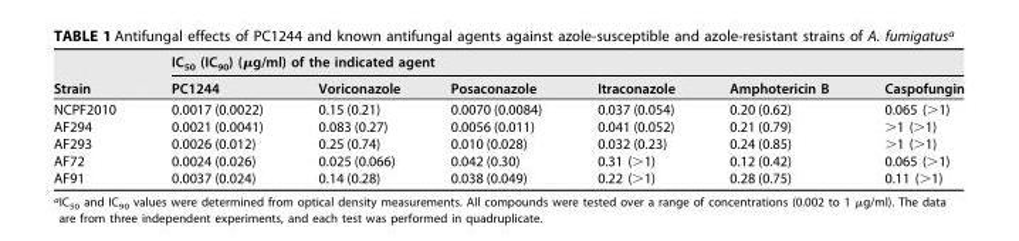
<table><thead><tr><td rowspan="2">Strain</td><td colspan="6">IC<sub>50</sub> (IC<sub>90</sub>) (μg/ml) of the indicated agent</td></tr><tr><td>PC1244</td><td>Voriconazole</td><td>Posaconazole</td><td>Itraconazole</td><td>Amphotericin B</td><td>Caspofungin</td></tr></thead><tbody><tr><td>NCPF2010</td><td>0.0017 (0.0022)</td><td>0.15 (0.21)</td><td>0.0070 (0.0084)</td><td>0.037 (0.054)</td><td>0.20 (0.62)</td><td>0.065 (&gt;1)</td></tr><tr><td>AF294</td><td>0.0021 (0.0041)</td><td>0.083 (0.27)</td><td>0.0056 (0.011)</td><td>0.041 (0.052)</td><td>0.21 (0.79)</td><td>&gt;1 (&gt;1)</td></tr><tr><td>AF293</td><td>0.0026 (0.012)</td><td>0.25 (0.74)</td><td>0.010 (0.028)</td><td>0.032 (0.23)</td><td>0.24 (0.85)</td><td>&gt;1 (&gt;1)</td></tr><tr><td>AF72</td><td>0.0024 (0.026)</td><td>0.025 (0.066)</td><td>0.042 (0.30)</td><td>0.31 (&gt;1)</td><td>0.12 (0.42)</td><td>0.065 (&gt;1)</td></tr><tr><td>AF91</td><td>0.0037 (0.024)</td><td>0.14 (0.28)</td><td>0.038 (0.049)</td><td>0.22 (&gt;1)</td><td>0.28 (0.75)</td><td>0.11 (&gt;1)</td></tr></tbody></table>